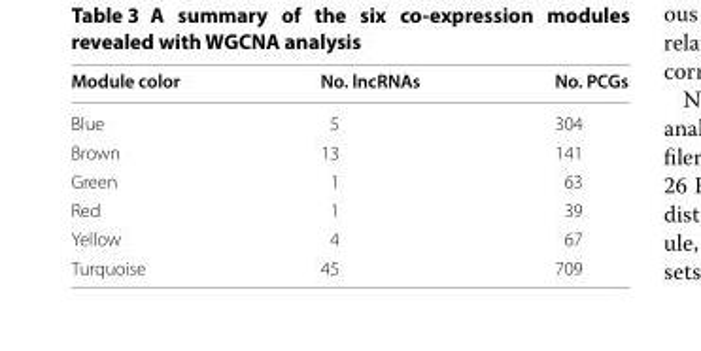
<table><thead><tr><td>Module color</td><td>No. lncRNAs</td><td>No. PCGs</td></tr></thead><tbody><tr><td>Blue</td><td>5</td><td>304</td></tr><tr><td>Brown</td><td>13</td><td>141</td></tr><tr><td>Green</td><td>1</td><td>63</td></tr><tr><td>Red</td><td>1</td><td>39</td></tr><tr><td>Yellow</td><td>4</td><td>67</td></tr><tr><td>Turquoise</td><td>45</td><td>709</td></tr></tbody></table>